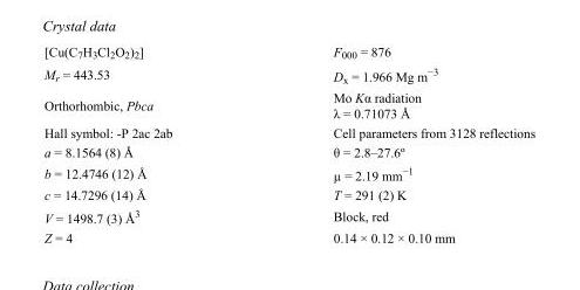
<table><tbody><tr><td>[Cu(C<sub>7</sub>H<sub>3</sub>Cl<sub>2</sub>O<sub>2</sub>)<sub>2</sub>]</td><td>F<sub>000</sub> = 876</td></tr><tr><td>M<sub>r</sub> = 443.53</td><td>D<sub>x</sub> = 1.966 Mg m<sup>−3</sup></td></tr><tr><td>Orthorhombic, Pbca</td><td>Mo Kα radiation λ = 0.71073 Å</td></tr><tr><td>Hall symbol: -P 2ac 2ab</td><td>Cell parameters from 3128 reflections</td></tr><tr><td>a = 8.1564 (8) Å</td><td>θ = 2.8–27.6º</td></tr><tr><td>b = 12.4746 (12) Å</td><td>µ = 2.19 mm<sup>−1</sup></td></tr><tr><td>c = 14.7296 (14) Å</td><td>T = 291 (2) K</td></tr><tr><td>V = 1498.7 (3) Å<sup>3</sup></td><td>Block, red</td></tr><tr><td>Z = 4</td><td>0.14 × 0.12 × 0.10 mm</td></tr></tbody></table>